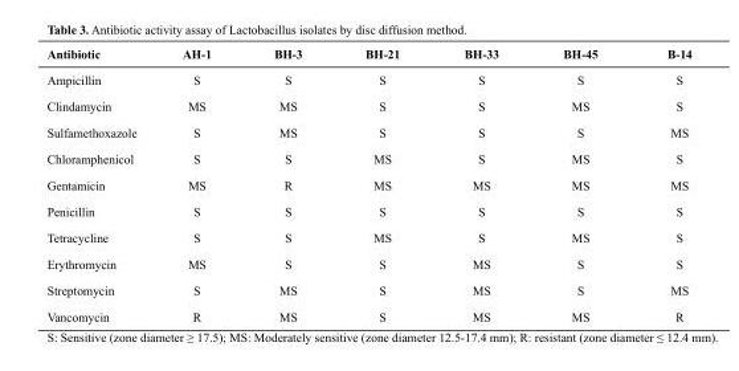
<table><thead><tr><td>Antibiotic</td><td>AH-1</td><td>BH-3</td><td>BH-21</td><td>BH-33</td><td>BH-45</td><td>B-14</td></tr></thead><tbody><tr><td>Ampicillin</td><td>S</td><td>S</td><td>S</td><td>S</td><td>S</td><td>S</td></tr><tr><td>Clindamycin</td><td>MS</td><td>MS</td><td>S</td><td>S</td><td>MS</td><td>S</td></tr><tr><td>Sulfamethoxazole</td><td>S</td><td>MS</td><td>S</td><td>S</td><td>S</td><td>MS</td></tr><tr><td>Chloramphenicol</td><td>S</td><td>S</td><td>MS</td><td>S</td><td>MS</td><td>S</td></tr><tr><td>Gentamicin</td><td>MS</td><td>R</td><td>MS</td><td>MS</td><td>MS</td><td>MS</td></tr><tr><td>Penicillin</td><td>S</td><td>S</td><td>S</td><td>S</td><td>S</td><td>S</td></tr><tr><td>Tetracycline</td><td>S</td><td>S</td><td>MS</td><td>S</td><td>MS</td><td>S</td></tr><tr><td>Erythromycin</td><td>MS</td><td>S</td><td>S</td><td>MS</td><td>S</td><td>S</td></tr><tr><td>Streptomycin</td><td>S</td><td>MS</td><td>S</td><td>MS</td><td>S</td><td>MS</td></tr><tr><td>Vancomycin</td><td>R</td><td>MS</td><td>S</td><td>MS</td><td>MS</td><td>R</td></tr></tbody></table>